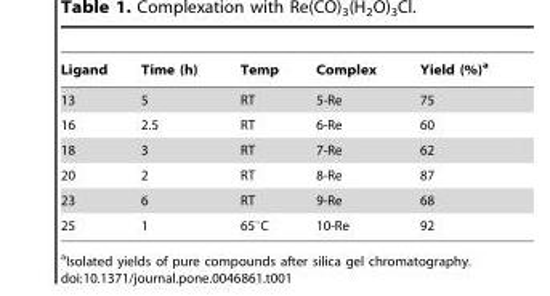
<table><thead><tr><td>Ligand</td><td>Time (h)</td><td>Temp</td><td>Complex</td><td>Yield (%)<sup>a</sup></td></tr></thead><tbody><tr><td>13</td><td>5</td><td>RT</td><td>5-Re</td><td>75</td></tr><tr><td>16</td><td>2.5</td><td>RT</td><td>6-Re</td><td>60</td></tr><tr><td>18</td><td>3</td><td>RT</td><td>7-Re</td><td>62</td></tr><tr><td>20</td><td>2</td><td>RT</td><td>8-Re</td><td>87</td></tr><tr><td>23</td><td>6</td><td>RT</td><td>9-Re</td><td>68</td></tr><tr><td>25</td><td>1</td><td>65°C</td><td>10-Re</td><td>92</td></tr></tbody></table>